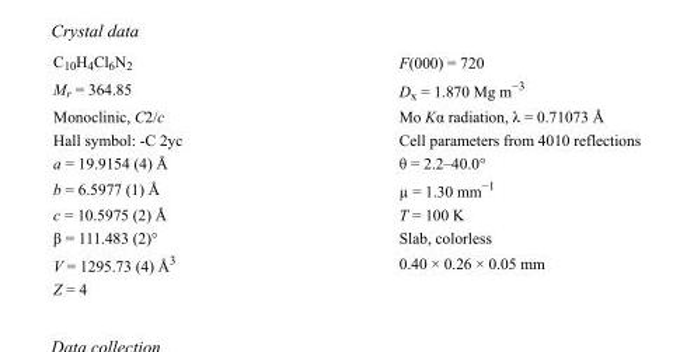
<table><tbody><tr><td>C<sub>10</sub>H<sub>4</sub>Cl<sub>6</sub>N<sub>2</sub></td><td>F(000) = 720</td></tr><tr><td>M<sub>r</sub> = 364.85</td><td>D<sub>x</sub> = 1.870 Mg m<sup>−3</sup></td></tr><tr><td>Monoclinic, C2/c</td><td>Mo Kα radiation, λ = 0.71073 Å</td></tr><tr><td>Hall symbol: -C 2yc</td><td>Cell parameters from 4010 reflections</td></tr><tr><td>a = 19.9154 (4) Å</td><td>θ = 2.2–40.0°</td></tr><tr><td>b = 6.5977 (1) Å</td><td>µ = 1.30 mm<sup>−1</sup></td></tr><tr><td>c = 10.5975 (2) Å</td><td>T = 100 K</td></tr><tr><td>β = 111.483 (2)°</td><td>Slab, colorless</td></tr><tr><td>V = 1295.73 (4) Å<sup>3</sup></td><td>0.40 × 0.26 × 0.05 mm</td></tr><tr><td>Z = 4</td><td></td></tr></tbody></table>